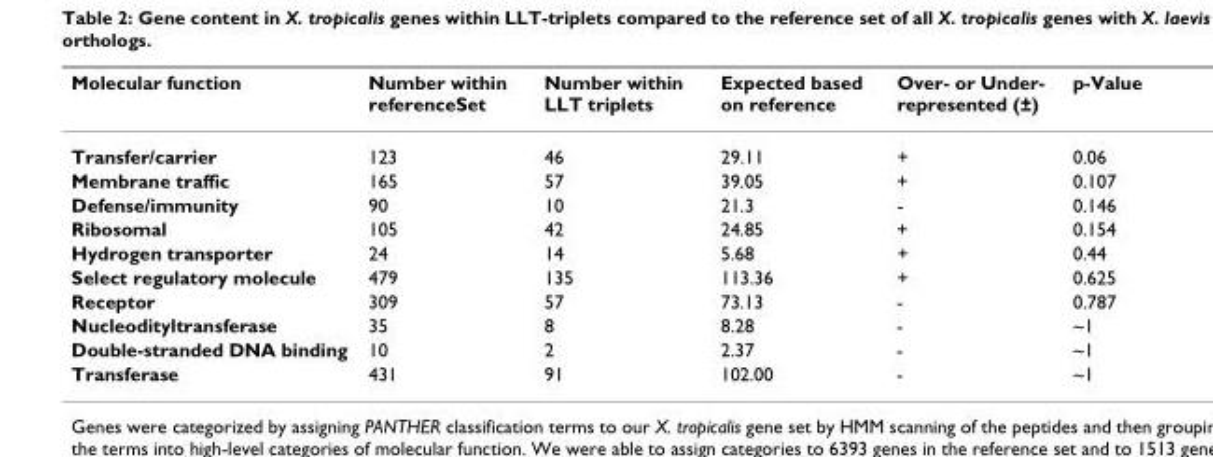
<table><thead><tr><td>Molecular function</td><td>Number within referenceSet</td><td>Number within LLT triplets</td><td>Expected based on reference</td><td>Over- or Under- represented (±)</td><td>p-Value</td></tr></thead><tbody><tr><td>Transfer/carrier</td><td>123</td><td>46</td><td>29.11</td><td>+</td><td>0.06</td></tr><tr><td>Membrane traffic</td><td>165</td><td>57</td><td>39.05</td><td>+</td><td>0.107</td></tr><tr><td>Defense/immunity</td><td>90</td><td>10</td><td>21.3</td><td>-</td><td>0.146</td></tr><tr><td>Ribosomal</td><td>105</td><td>42</td><td>24.85</td><td>+</td><td>0.154</td></tr><tr><td>Hydrogen transporter</td><td>24</td><td>14</td><td>5.68</td><td>+</td><td>0.44</td></tr><tr><td>Select regulatory molecule</td><td>479</td><td>135</td><td>113.36</td><td>+</td><td>0.625</td></tr><tr><td>Receptor</td><td>309</td><td>57</td><td>73.13</td><td>-</td><td>0.787</td></tr><tr><td>Nucleodityltransferase</td><td>35</td><td>8</td><td>8.28</td><td>-</td><td>~1</td></tr><tr><td>Double-stranded DNA binding</td><td>10</td><td>2</td><td>2.37</td><td>-</td><td>~1</td></tr><tr><td>Transferase</td><td>431</td><td>91</td><td>102.00</td><td>-</td><td>~1</td></tr></tbody></table>